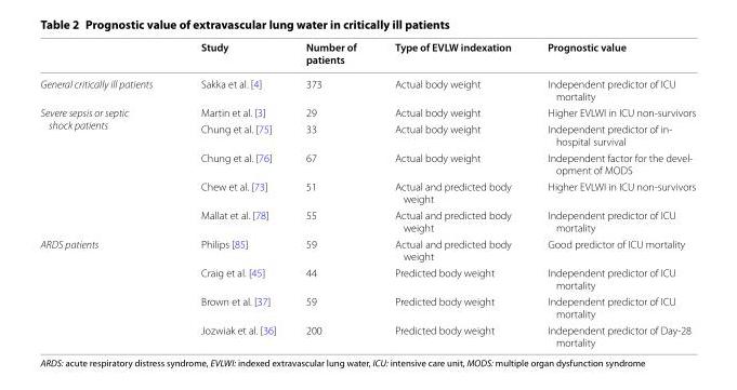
<table><thead><tr><td></td><td>Study</td><td>Number of patients</td><td>Type of EVLW indexation</td><td>Prognostic value</td></tr></thead><tbody><tr><td>General critically ill patients</td><td>Sakka et al. [4]</td><td>373</td><td>Actual body weight</td><td>Independent predictor of ICU mortality</td></tr><tr><td rowspan="5">Severe sepsis or septic shock patients</td><td>Martin et al. [3]</td><td>29</td><td>Actual body weight</td><td>Higher EVLWI in ICU non‑survivors</td></tr><tr><td>Chung et al. [75]</td><td>33</td><td>Actual body weight</td><td>Independent predictor of in‑ hospital survival</td></tr><tr><td>Chung et al. [76]</td><td>67</td><td>Actual body weight</td><td>Independent factor for the devel‑ opment of MODS</td></tr><tr><td>Chew et al. [73]</td><td>51</td><td>Actual and predicted body weight</td><td>Higher EVLWI in ICU non‑survivors</td></tr><tr><td>Mallat et al. [78]</td><td>55</td><td>Actual and predicted body weight</td><td>Independent predictor of ICU mortality</td></tr><tr><td rowspan="4">ARDS patients</td><td>Philips [85]</td><td>59</td><td>Actual and predicted body weight</td><td>Good predictor of ICU mortality</td></tr><tr><td>Craig et al. [45]</td><td>44</td><td>Predicted body weight</td><td>Independent predictor of ICU mortality</td></tr><tr><td>Brown et al. [37]</td><td>59</td><td>Predicted body weight</td><td>Independent predictor of ICU mortality</td></tr><tr><td>Jozwiak et al. [36]</td><td>200</td><td>Predicted body weight</td><td>Independent predictor of Day‑28 mortality</td></tr></tbody></table>